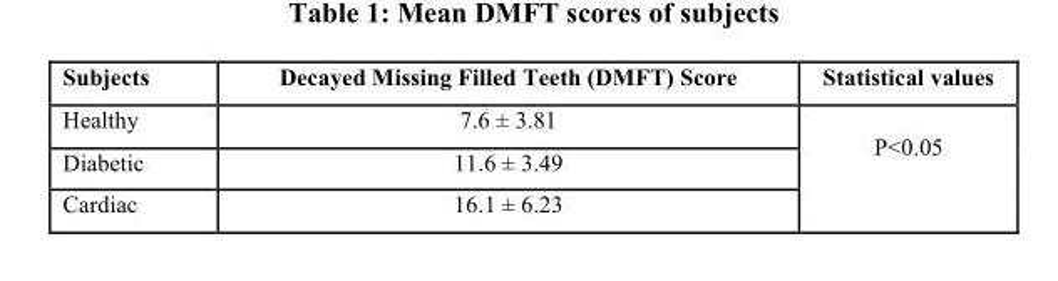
<table><thead><tr><td>Subjects</td><td>Decayed Missing Filled Teeth (DMFT) Score</td><td>Statistical values</td></tr></thead><tbody><tr><td>Healthy</td><td>7.6 ± 3.81</td><td rowspan="3">P&lt;0.05</td></tr><tr><td>Diabetic</td><td>11.6 ± 3.49</td></tr><tr><td>Cardiac</td><td>16.1 ± 6.23</td></tr></tbody></table>